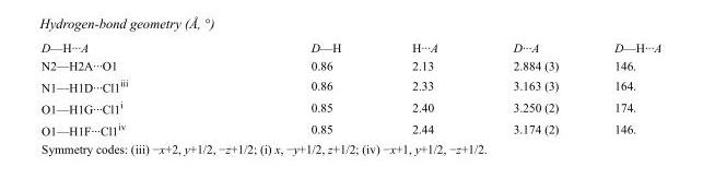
<table><tbody><tr><td>D—H···A</td><td>D—H</td><td>H···A</td><td>D···A</td><td>D—H···A</td></tr><tr><td>N2—H2A···O1</td><td>0.86</td><td>2.13</td><td>2.884 (3)</td><td>146.</td></tr><tr><td>N1—H1D···Cl1<sup>iii</sup></td><td>0.86</td><td>2.33</td><td>3.163 (3)</td><td>164.</td></tr><tr><td>O1—H1G···Cl1<sup>i</sup></td><td>0.85</td><td>2.40</td><td>3.250 (2)</td><td>174.</td></tr><tr><td>O1—H1F···Cl1<sup>iv</sup></td><td>0.85</td><td>2.44</td><td>3.174 (2)</td><td>146.</td></tr></tbody></table>